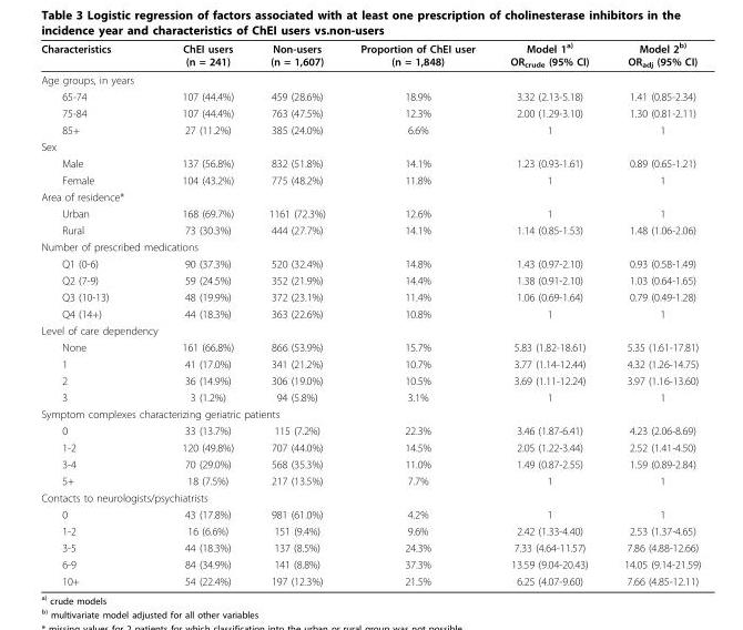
<table><thead><tr><td>Characteristics</td><td>ChEI users (n = 241)</td><td>Non-users (n = 1,607)</td><td>Proportion of ChEI user (n = 1,848)</td><td>Model 1<sup>a)</sup> OR<sub>crude</sub> (95% CI)</td><td>Model 2<sup>b)</sup> OR<sub>adj</sub> (95% CI)</td></tr></thead><tbody><tr><td colspan="6">Age groups, in years</td></tr><tr><td>65-74</td><td>107 (44.4%)</td><td>459 (28.6%)</td><td>18.9%</td><td>3.32 (2.13-5.18)</td><td>1.41 (0.85-2.34)</td></tr><tr><td>75-84</td><td>107 (44.4%)</td><td>763 (47.5%)</td><td>12.3%</td><td>2.00 (1.29-3.10)</td><td>1.30 (0.81-2.11)</td></tr><tr><td>85+</td><td>27 (11.2%)</td><td>385 (24.0%)</td><td>6.6%</td><td>1</td><td>1</td></tr><tr><td colspan="6">Sex</td></tr><tr><td>Male</td><td>137 (56.8%)</td><td>832 (51.8%)</td><td>14.1%</td><td>1.23 (0.93-1.61)</td><td>0.89 (0.65-1.21)</td></tr><tr><td>Female</td><td>104 (43.2%)</td><td>775 (48.2%)</td><td>11.8%</td><td>1</td><td>1</td></tr><tr><td colspan="6">Area of residence*</td></tr><tr><td>Urban</td><td>168 (69.7%)</td><td>1161 (72.3%)</td><td>12.6%</td><td>1</td><td>1</td></tr><tr><td>Rural</td><td>73 (30.3%)</td><td>444 (27.7%)</td><td>14.1%</td><td>1.14 (0.85-1.53)</td><td>1.48 (1.06-2.06)</td></tr><tr><td colspan="6">Number of prescribed medications</td></tr><tr><td>Q1 (0-6)</td><td>90 (37.3%)</td><td>520 (32.4%)</td><td>14.8%</td><td>1.43 (0.97-2.10)</td><td>0.93 (0.58-1.49)</td></tr><tr><td>Q2 (7-9)</td><td>59 (24.5%)</td><td>352 (21.9%)</td><td>14.4%</td><td>1.38 (0.91-2.10)</td><td>1.03 (0.64-1.65)</td></tr><tr><td>Q3 (10-13)</td><td>48 (19.9%)</td><td>372 (23.1%)</td><td>11.4%</td><td>1.06 (0.69-1.64)</td><td>0.79 (0.49-1.28)</td></tr><tr><td>Q4 (14+)</td><td>44 (18.3%)</td><td>363 (22.6%)</td><td>10.8%</td><td>1</td><td>1</td></tr><tr><td colspan="6">Level of care dependency</td></tr><tr><td>None</td><td>161 (66.8%)</td><td>866 (53.9%)</td><td>15.7%</td><td>5.83 (1.82-18.61)</td><td>5.35 (1.61-17.81)</td></tr><tr><td>1</td><td>41 (17.0%)</td><td>341 (21.2%)</td><td>10.7%</td><td>3.77 (1.14-12.44)</td><td>4.32 (1.26-14.75)</td></tr><tr><td>2</td><td>36 (14.9%)</td><td>306 (19.0%)</td><td>10.5%</td><td>3.69 (1.11-12.24)</td><td>3.97 (1.16-13.60)</td></tr><tr><td>3</td><td>3 (1.2%)</td><td>94 (5.8%)</td><td>3.1%</td><td>1</td><td>1</td></tr><tr><td colspan="6">Symptom complexes characterizing geriatric patients</td></tr><tr><td>0</td><td>33 (13.7%)</td><td>115 (7.2%)</td><td>22.3%</td><td>3.46 (1.87-6.41)</td><td>4.23 (2.06-8.69)</td></tr><tr><td>1-2</td><td>120 (49.8%)</td><td>707 (44.0%)</td><td>14.5%</td><td>2.05 (1.22-3.44)</td><td>2.52 (1.41-4.50)</td></tr><tr><td>3-4</td><td>70 (29.0%)</td><td>568 (35.3%)</td><td>11.0%</td><td>1.49 (0.87-2.55)</td><td>1.59 (0.89-2.84)</td></tr><tr><td>5+</td><td>18 (7.5%)</td><td>217 (13.5%)</td><td>7.7%</td><td>1</td><td>1</td></tr><tr><td colspan="6">Contacts to neurologists/psychiatrists</td></tr><tr><td>0</td><td>43 (17.8%)</td><td>981 (61.0%)</td><td>4.2%</td><td>1</td><td>1</td></tr><tr><td>1-2</td><td>16 (6.6%)</td><td>151 (9.4%)</td><td>9.6%</td><td>2.42 (1.33-4.40)</td><td>2.53 (1.37-4.65)</td></tr><tr><td>3-5</td><td>44 (18.3%)</td><td>137 (8.5%)</td><td>24.3%</td><td>7.33 (4.64-11.57)</td><td>7.86 (4.88-12.66)</td></tr><tr><td>6-9</td><td>84 (34.9%)</td><td>141 (8.8%)</td><td>37.3%</td><td>13.59 (9.04-20.43)</td><td>14.05 (9.14-21.59)</td></tr><tr><td>10+</td><td>54 (22.4%)</td><td>197 (12.3%)</td><td>21.5%</td><td>6.25 (4.07-9.60)</td><td>7.66 (4.85-12.11)</td></tr></tbody></table>